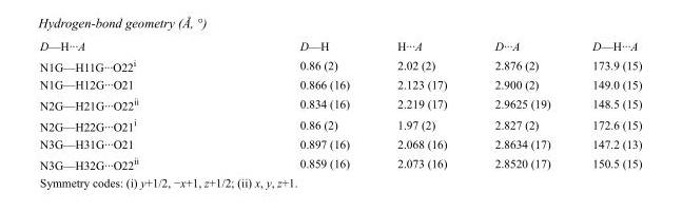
<table><tbody><tr><td>D—H···A</td><td>D—H</td><td>H···A</td><td>D···A</td><td>D—H···A</td></tr><tr><td>N1G—H11G···O22<sup>i</sup></td><td>0.86 (2)</td><td>2.02 (2)</td><td>2.876 (2)</td><td>173.9 (15)</td></tr><tr><td>N1G—H12G···O21</td><td>0.866 (16)</td><td>2.123 (17)</td><td>2.900 (2)</td><td>149.0 (15)</td></tr><tr><td>N2G—H21G···O22<sup>ii</sup></td><td>0.834 (16)</td><td>2.219 (17)</td><td>2.9625 (19)</td><td>148.5 (15)</td></tr><tr><td>N2G—H22G···O21<sup>i</sup></td><td>0.86 (2)</td><td>1.97 (2)</td><td>2.827 (2)</td><td>172.6 (15)</td></tr><tr><td>N3G—H31G···O21</td><td>0.897 (16)</td><td>2.068 (16)</td><td>2.8634 (17)</td><td>147.2 (13)</td></tr><tr><td>N3G—H32G···O22<sup>ii</sup></td><td>0.859 (16)</td><td>2.073 (16)</td><td>2.8520 (17)</td><td>150.5 (15)</td></tr></tbody></table>